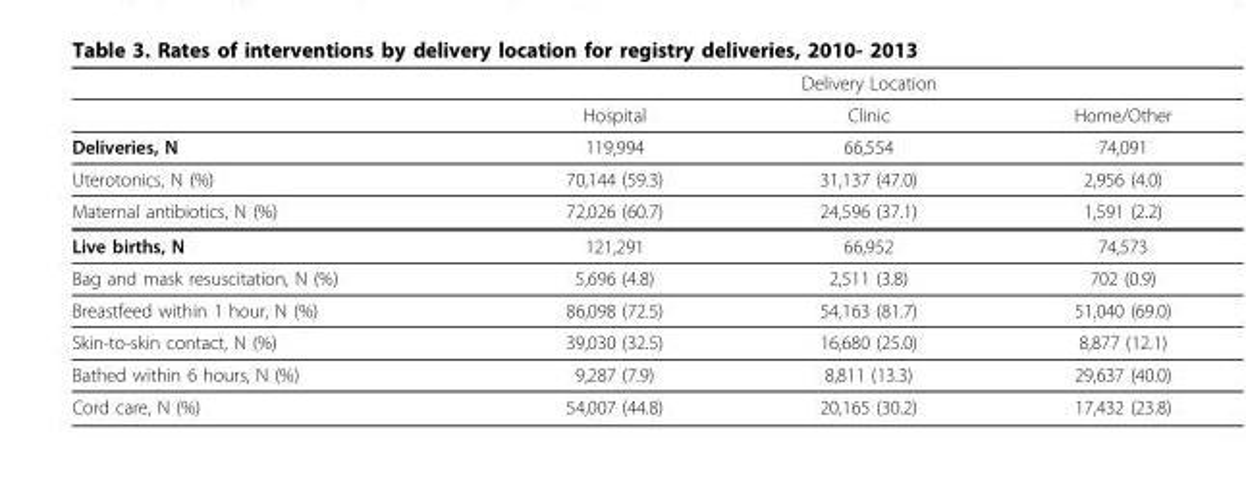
<table><thead><tr><td rowspan="2"></td><td colspan="3">Delivery Location</td></tr><tr><td>Hospital</td><td>Clinic</td><td>Home/Other</td></tr></thead><tbody><tr><td>Deliveries, N</td><td>119,994</td><td>66,554</td><td>74,091</td></tr><tr><td>Uterotonics, N (%)</td><td>70,144 (59.3)</td><td>31,137 (47.0)</td><td>2,956 (4.0)</td></tr><tr><td>Maternal antibiotics, N (%)</td><td>72,026 (60.7)</td><td>24,596 (37.1)</td><td>1,591 (2.2)</td></tr><tr><td>Live births, N</td><td>121,291</td><td>66,952</td><td>74,573</td></tr><tr><td>Bag and mask resuscitation, N (%)</td><td>5,696 (4.8)</td><td>2,511 (3.8)</td><td>702 (0.9)</td></tr><tr><td>Breastfeed within 1 hour, N (%)</td><td>86,098 (72.5)</td><td>54,163 (81.7)</td><td>51,040 (69.0)</td></tr><tr><td>Skin-to-skin contact, N (%)</td><td>39,030 (32.5)</td><td>16,680 (25.0)</td><td>8,877 (12.1)</td></tr><tr><td>Bathed within 6 hours, N (%)</td><td>9,287 (7.9)</td><td>8,811 (13.3)</td><td>29,637 (40.0)</td></tr><tr><td>Cord care, N (%)</td><td>54,007 (44.8)</td><td>20,165 (30.2)</td><td>17,432 (23.8)</td></tr></tbody></table>